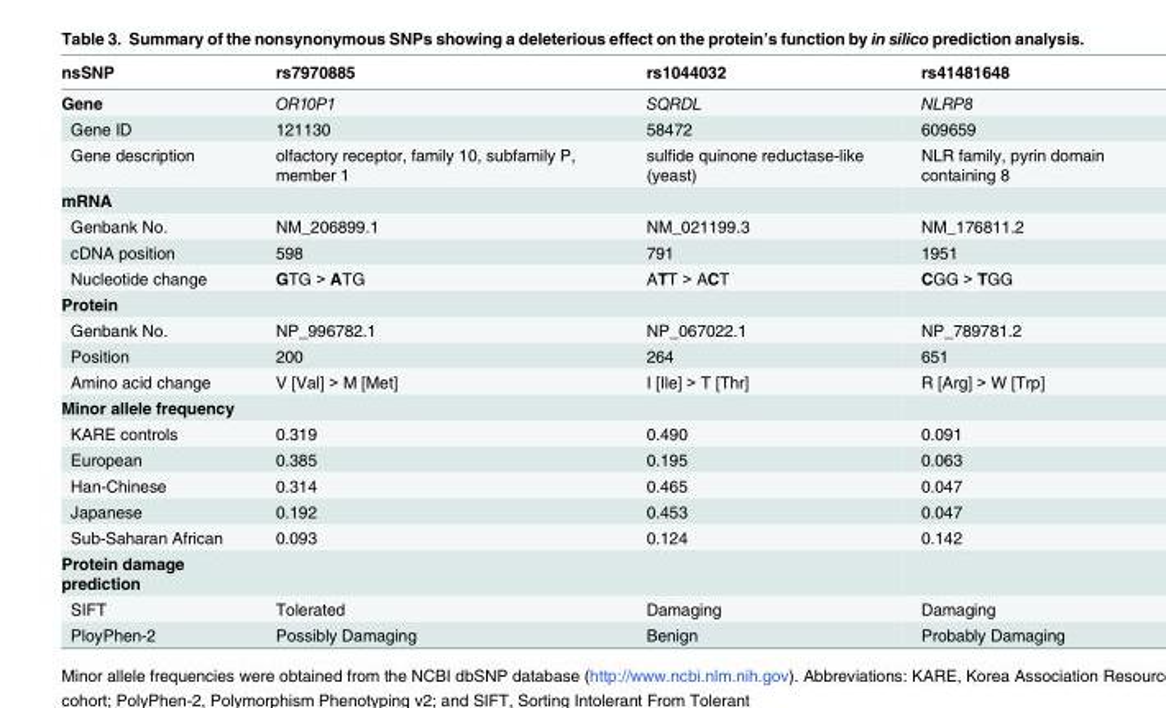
<table><thead><tr><td>nsSNP</td><td>rs7970885</td><td>rs1044032</td><td>rs41481648</td></tr></thead><tbody><tr><td>Gene</td><td>OR10P1</td><td>SQRDL</td><td>NLRP8</td></tr><tr><td>Gene ID</td><td>121130</td><td>58472</td><td>609659</td></tr><tr><td>Gene description</td><td>olfactory receptor, family 10, subfamily P, member 1</td><td>sulfide quinone reductase-like (yeast)</td><td>NLR family, pyrin domain containing 8</td></tr><tr><td colspan="4">mRNA</td></tr><tr><td>Genbank No.</td><td>NM_206899.1</td><td>NM_021199.3</td><td>NM_176811.2</td></tr><tr><td>cDNA position</td><td>598</td><td>791</td><td>1951</td></tr><tr><td>Nucleotide change</td><td>GTG &gt; ATG</td><td>ATT &gt; ACT</td><td>CGG &gt; TGG</td></tr><tr><td colspan="4">Protein</td></tr><tr><td>Genbank No.</td><td>NP_996782.1</td><td>NP_067022.1</td><td>NP_789781.2</td></tr><tr><td>Position</td><td>200</td><td>264</td><td>651</td></tr><tr><td>Amino acid change</td><td>V [Val] &gt; M [Met]</td><td>I [Ile] &gt; T [Thr]</td><td>R [Arg] &gt; W [Trp]</td></tr><tr><td colspan="4">Minor allele frequency</td></tr><tr><td>KARE controls</td><td>0.319</td><td>0.490</td><td>0.091</td></tr><tr><td>European</td><td>0.385</td><td>0.195</td><td>0.063</td></tr><tr><td>Han-Chinese</td><td>0.314</td><td>0.465</td><td>0.047</td></tr><tr><td>Japanese</td><td>0.192</td><td>0.453</td><td>0.047</td></tr><tr><td>Sub-Saharan African</td><td>0.093</td><td>0.124</td><td>0.142</td></tr><tr><td colspan="4">Protein damage prediction</td></tr><tr><td>SIFT</td><td>Tolerated</td><td>Damaging</td><td>Damaging</td></tr><tr><td>PloyPhen-2</td><td>Possibly Damaging</td><td>Benign</td><td>Probably Damaging</td></tr></tbody></table>